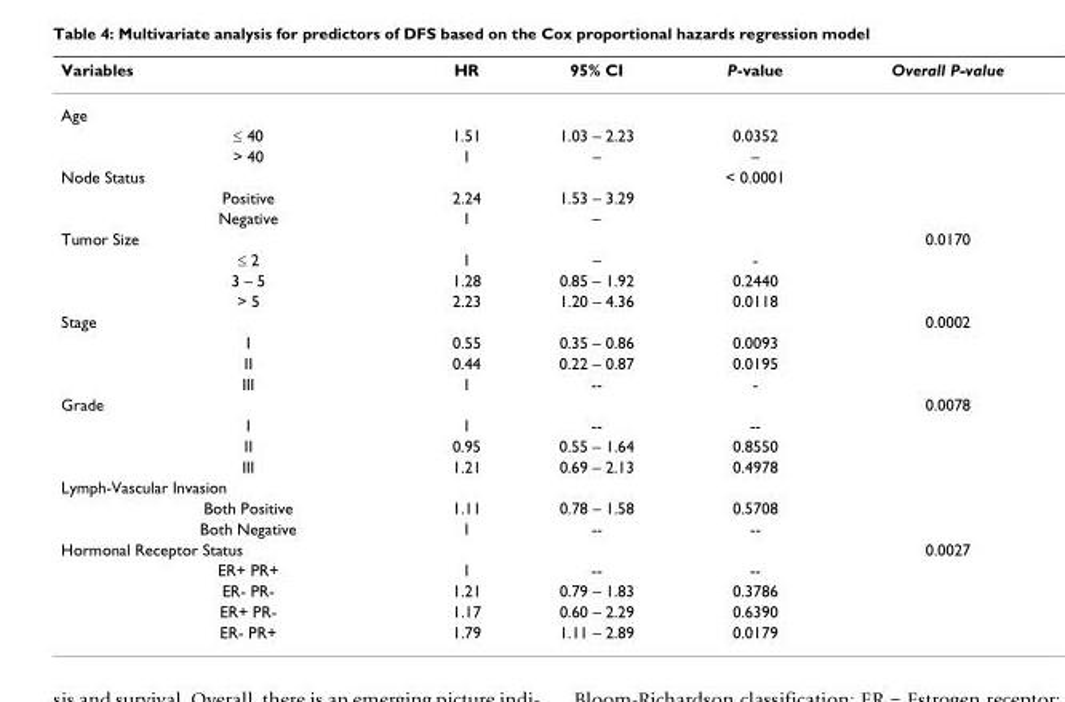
<table><thead><tr><td>Variables</td><td>HR</td><td>95% CI</td><td>P-value</td><td>Overall P-value</td></tr></thead><tbody><tr><td colspan="5">Age</td></tr><tr><td>≤ 40</td><td>1.51</td><td>1.03 – 2.23</td><td>0.0352</td><td></td></tr><tr><td>&gt; 40</td><td>1</td><td>–</td><td>–</td><td></td></tr><tr><td>Node Status</td><td></td><td></td><td>&lt; 0.0001</td><td></td></tr><tr><td>Positive</td><td>2.24</td><td>1.53 – 3.29</td><td></td><td></td></tr><tr><td>Negative</td><td>1</td><td>–</td><td></td><td></td></tr><tr><td>Tumor Size</td><td></td><td></td><td></td><td>0.0170</td></tr><tr><td>≤ 2</td><td>1</td><td>–</td><td>-</td><td></td></tr><tr><td>3 – 5</td><td>1.28</td><td>0.85 – 1.92</td><td>0.2440</td><td></td></tr><tr><td>&gt; 5</td><td>2.23</td><td>1.20 – 4.36</td><td>0.0118</td><td></td></tr><tr><td>Stage</td><td></td><td></td><td></td><td>0.0002</td></tr><tr><td>I</td><td>0.55</td><td>0.35 – 0.86</td><td>0.0093</td><td></td></tr><tr><td>II</td><td>0.44</td><td>0.22 – 0.87</td><td>0.0195</td><td></td></tr><tr><td>III</td><td>1</td><td>--</td><td>-</td><td></td></tr><tr><td>Grade</td><td></td><td></td><td></td><td>0.0078</td></tr><tr><td>I</td><td>1</td><td>--</td><td>--</td><td></td></tr><tr><td>II</td><td>0.95</td><td>0.55 – 1.64</td><td>0.8550</td><td></td></tr><tr><td>III</td><td>1.21</td><td>0.69 – 2.13</td><td>0.4978</td><td></td></tr><tr><td colspan="5">Lymph-Vascular Invasion</td></tr><tr><td>Both Positive</td><td>1.11</td><td>0.78 – 1.58</td><td>0.5708</td><td></td></tr><tr><td>Both Negative</td><td>1</td><td>--</td><td>--</td><td></td></tr><tr><td>Hormonal Receptor Status</td><td></td><td></td><td></td><td>0.0027</td></tr><tr><td>ER+ PR+</td><td>1</td><td>--</td><td>--</td><td></td></tr><tr><td>ER- PR-</td><td>1.21</td><td>0.79 – 1.83</td><td>0.3786</td><td></td></tr><tr><td>ER+ PR-</td><td>1.17</td><td>0.60 – 2.29</td><td>0.6390</td><td></td></tr><tr><td>ER- PR+</td><td>1.79</td><td>1.11 – 2.89</td><td>0.0179</td><td></td></tr></tbody></table>